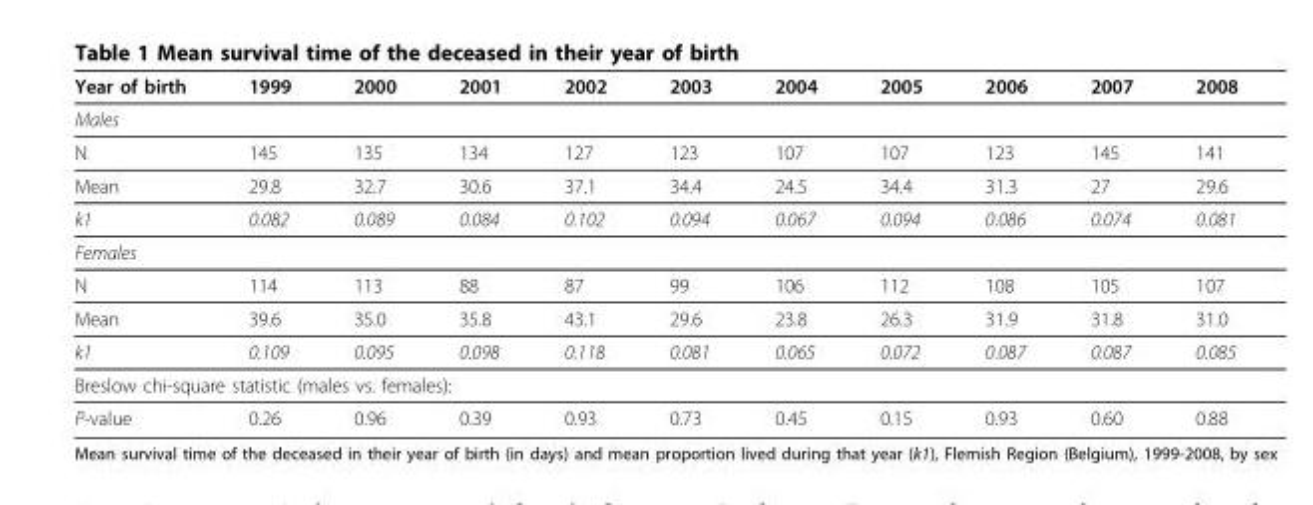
<table><thead><tr><td>Year of birth</td><td>1999</td><td>2000</td><td>2001</td><td>2002</td><td>2003</td><td>2004</td><td>2005</td><td>2006</td><td>2007</td><td>2008</td></tr></thead><tbody><tr><td colspan="11">Males</td></tr><tr><td>N</td><td>145</td><td>135</td><td>134</td><td>127</td><td>123</td><td>107</td><td>107</td><td>123</td><td>145</td><td>141</td></tr><tr><td>Mean</td><td>29.8</td><td>32.7</td><td>30.6</td><td>37.1</td><td>34.4</td><td>24.5</td><td>34.4</td><td>31.3</td><td>27</td><td>29.6</td></tr><tr><td>k1</td><td>0.082</td><td>0.089</td><td>0.084</td><td>0.102</td><td>0.094</td><td>0.067</td><td>0.094</td><td>0.086</td><td>0.074</td><td>0.081</td></tr><tr><td colspan="11">Females</td></tr><tr><td>N</td><td>114</td><td>113</td><td>88</td><td>87</td><td>99</td><td>106</td><td>112</td><td>108</td><td>105</td><td>107</td></tr><tr><td>Mean</td><td>39.6</td><td>35.0</td><td>35.8</td><td>43.1</td><td>29.6</td><td>23.8</td><td>26.3</td><td>31.9</td><td>31.8</td><td>31.0</td></tr><tr><td>k1</td><td>0.109</td><td>0.095</td><td>0.098</td><td>0.118</td><td>0.081</td><td>0.065</td><td>0.072</td><td>0.087</td><td>0.087</td><td>0.085</td></tr><tr><td colspan="11">Breslow chi-square statistic (males vs. females):</td></tr><tr><td>P-value</td><td>0.26</td><td>0.96</td><td>0.39</td><td>0.93</td><td>0.73</td><td>0.45</td><td>0.15</td><td>0.93</td><td>0.60</td><td>0.88</td></tr></tbody></table>